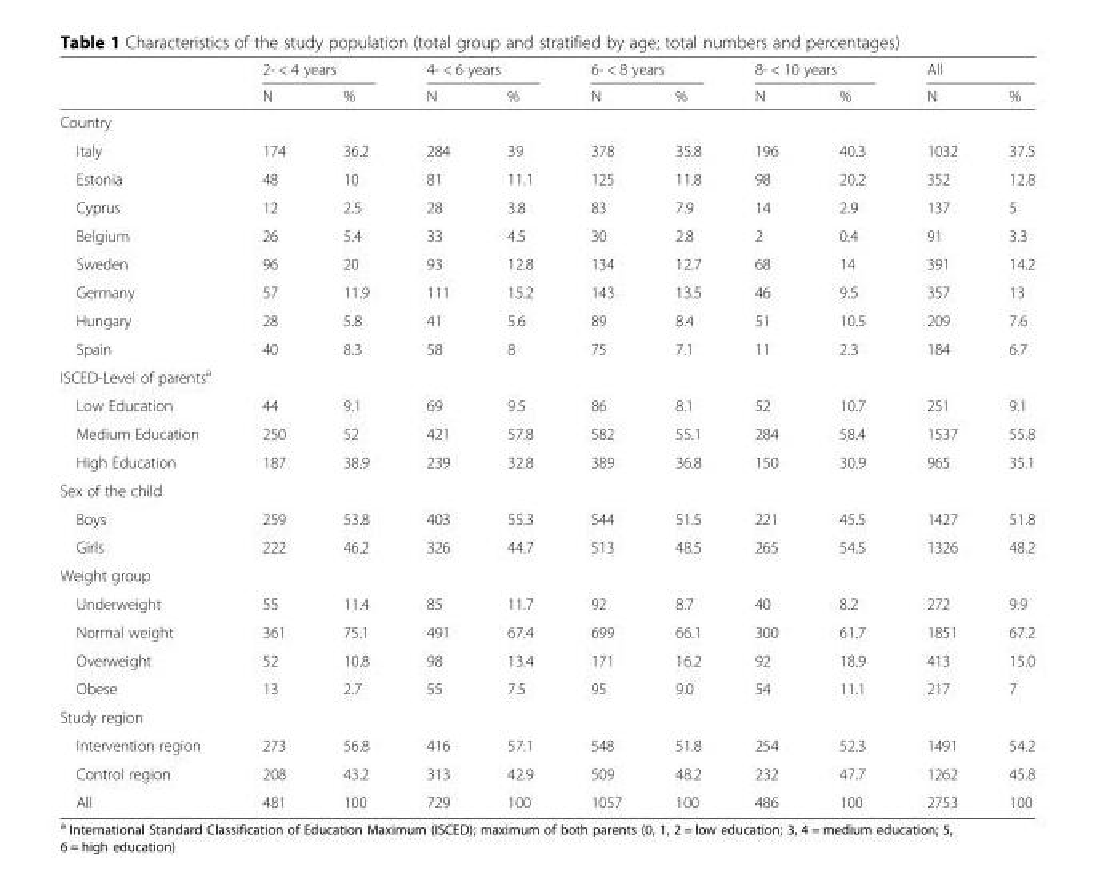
<table><thead><tr><td rowspan="2"></td><td colspan="2">2- &lt; 4 years</td><td colspan="2">4- &lt; 6 years</td><td colspan="2">6- &lt; 8 years</td><td colspan="2">8- &lt; 10 years</td><td colspan="2">All</td></tr><tr><td>N</td><td>%</td><td>N</td><td>%</td><td>N</td><td>%</td><td>N</td><td>%</td><td>N</td><td>%</td></tr></thead><tbody><tr><td colspan="11">Country</td></tr><tr><td>Italy</td><td>174</td><td>36.2</td><td>284</td><td>39</td><td>378</td><td>35.8</td><td>196</td><td>40.3</td><td>1032</td><td>37.5</td></tr><tr><td>Estonia</td><td>48</td><td>10</td><td>81</td><td>11.1</td><td>125</td><td>11.8</td><td>98</td><td>20.2</td><td>352</td><td>12.8</td></tr><tr><td>Cyprus</td><td>12</td><td>2.5</td><td>28</td><td>3.8</td><td>83</td><td>7.9</td><td>14</td><td>2.9</td><td>137</td><td>5</td></tr><tr><td>Belgium</td><td>26</td><td>5.4</td><td>33</td><td>4.5</td><td>30</td><td>2.8</td><td>2</td><td>0.4</td><td>91</td><td>3.3</td></tr><tr><td>Sweden</td><td>96</td><td>20</td><td>93</td><td>12.8</td><td>134</td><td>12.7</td><td>68</td><td>14</td><td>391</td><td>14.2</td></tr><tr><td>Germany</td><td>57</td><td>11.9</td><td>111</td><td>15.2</td><td>143</td><td>13.5</td><td>46</td><td>9.5</td><td>357</td><td>13</td></tr><tr><td>Hungary</td><td>28</td><td>5.8</td><td>41</td><td>5.6</td><td>89</td><td>8.4</td><td>51</td><td>10.5</td><td>209</td><td>7.6</td></tr><tr><td>Spain</td><td>40</td><td>8.3</td><td>58</td><td>8</td><td>75</td><td>7.1</td><td>11</td><td>2.3</td><td>184</td><td>6.7</td></tr><tr><td colspan="11">ISCED-Level of parents<sup>a</sup></td></tr><tr><td>Low Education</td><td>44</td><td>9.1</td><td>69</td><td>9.5</td><td>86</td><td>8.1</td><td>52</td><td>10.7</td><td>251</td><td>9.1</td></tr><tr><td>Medium Education</td><td>250</td><td>52</td><td>421</td><td>57.8</td><td>582</td><td>55.1</td><td>284</td><td>58.4</td><td>1537</td><td>55.8</td></tr><tr><td>High Education</td><td>187</td><td>38.9</td><td>239</td><td>32.8</td><td>389</td><td>36.8</td><td>150</td><td>30.9</td><td>965</td><td>35.1</td></tr><tr><td colspan="11">Sex of the child</td></tr><tr><td>Boys</td><td>259</td><td>53.8</td><td>403</td><td>55.3</td><td>544</td><td>51.5</td><td>221</td><td>45.5</td><td>1427</td><td>51.8</td></tr><tr><td>Girls</td><td>222</td><td>46.2</td><td>326</td><td>44.7</td><td>513</td><td>48.5</td><td>265</td><td>54.5</td><td>1326</td><td>48.2</td></tr><tr><td colspan="11">Weight group</td></tr><tr><td>Underweight</td><td>55</td><td>11.4</td><td>85</td><td>11.7</td><td>92</td><td>8.7</td><td>40</td><td>8.2</td><td>272</td><td>9.9</td></tr><tr><td>Normal weight</td><td>361</td><td>75.1</td><td>491</td><td>67.4</td><td>699</td><td>66.1</td><td>300</td><td>61.7</td><td>1851</td><td>67.2</td></tr><tr><td>Overweight</td><td>52</td><td>10.8</td><td>98</td><td>13.4</td><td>171</td><td>16.2</td><td>92</td><td>18.9</td><td>413</td><td>15.0</td></tr><tr><td>Obese</td><td>13</td><td>2.7</td><td>55</td><td>7.5</td><td>95</td><td>9.0</td><td>54</td><td>11.1</td><td>217</td><td>7</td></tr><tr><td colspan="11">Study region</td></tr><tr><td>Intervention region</td><td>273</td><td>56.8</td><td>416</td><td>57.1</td><td>548</td><td>51.8</td><td>254</td><td>52.3</td><td>1491</td><td>54.2</td></tr><tr><td>Control region</td><td>208</td><td>43.2</td><td>313</td><td>42.9</td><td>509</td><td>48.2</td><td>232</td><td>47.7</td><td>1262</td><td>45.8</td></tr><tr><td>All</td><td>481</td><td>100</td><td>729</td><td>100</td><td>1057</td><td>100</td><td>486</td><td>100</td><td>2753</td><td>100</td></tr></tbody></table>